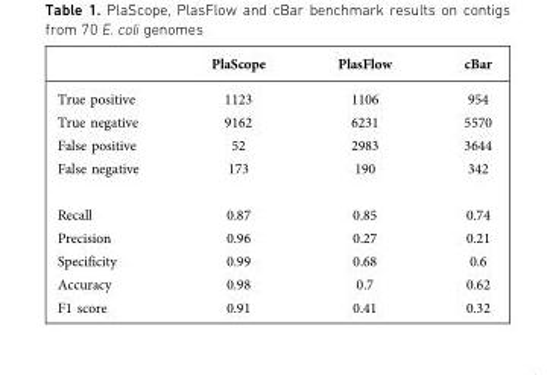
<table><thead><tr><td></td><td>PlaScope</td><td>PlasFlow</td><td>cBar</td></tr></thead><tbody><tr><td>True positive</td><td>1123</td><td>1106</td><td>954</td></tr><tr><td>True negative</td><td>9162</td><td>6231</td><td>5570</td></tr><tr><td>False positive</td><td>52</td><td>2983</td><td>3644</td></tr><tr><td>False negative</td><td>173</td><td>190</td><td>342</td></tr><tr><td>Recall</td><td>0.87</td><td>0.85</td><td>0.74</td></tr><tr><td>Precision</td><td>0.96</td><td>0.27</td><td>0.21</td></tr><tr><td>Specificity</td><td>0.99</td><td>0.68</td><td>0.6</td></tr><tr><td>Accuracy</td><td>0.98</td><td>0.7</td><td>0.62</td></tr><tr><td>F1 score</td><td>0.91</td><td>0.41</td><td>0.32</td></tr></tbody></table>